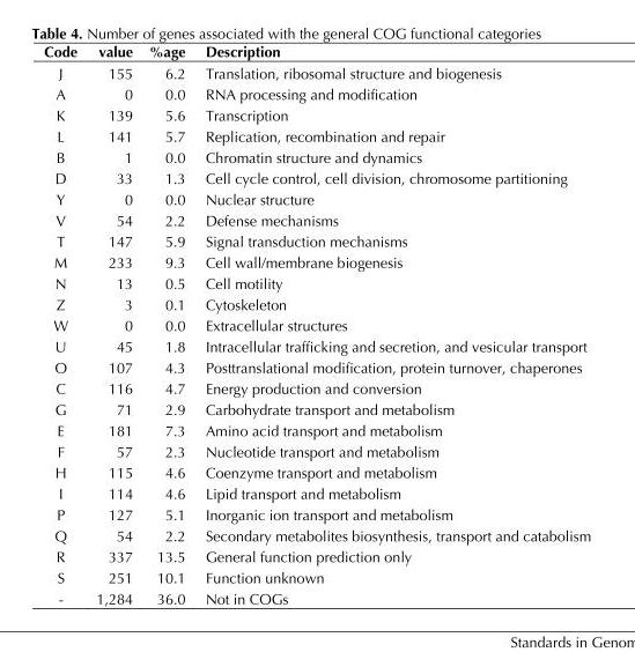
<table><thead><tr><td>Code</td><td>value</td><td>%age</td><td>Description</td></tr></thead><tbody><tr><td>J</td><td>155</td><td>6.2</td><td>Translation, ribosomal structure and biogenesis</td></tr><tr><td>A</td><td>0</td><td>0.0</td><td>RNA processing and modification</td></tr><tr><td>K</td><td>139</td><td>5.6</td><td>Transcription</td></tr><tr><td>L</td><td>141</td><td>5.7</td><td>Replication, recombination and repair</td></tr><tr><td>B</td><td>1</td><td>0.0</td><td>Chromatin structure and dynamics</td></tr><tr><td>D</td><td>33</td><td>1.3</td><td>Cell cycle control, cell division, chromosome partitioning</td></tr><tr><td>Y</td><td>0</td><td>0.0</td><td>Nuclear structure</td></tr><tr><td>V</td><td>54</td><td>2.2</td><td>Defense mechanisms</td></tr><tr><td>T</td><td>147</td><td>5.9</td><td>Signal transduction mechanisms</td></tr><tr><td>M</td><td>233</td><td>9.3</td><td>Cell wall/membrane biogenesis</td></tr><tr><td>N</td><td>13</td><td>0.5</td><td>Cell motility</td></tr><tr><td>Z</td><td>3</td><td>0.1</td><td>Cytoskeleton</td></tr><tr><td>W</td><td>0</td><td>0.0</td><td>Extracellular structures</td></tr><tr><td>U</td><td>45</td><td>1.8</td><td>Intracellular trafficking and secretion, and vesicular transport</td></tr><tr><td>O</td><td>107</td><td>4.3</td><td>Posttranslational modification, protein turnover, chaperones</td></tr><tr><td>C</td><td>116</td><td>4.7</td><td>Energy production and conversion</td></tr><tr><td>G</td><td>71</td><td>2.9</td><td>Carbohydrate transport and metabolism</td></tr><tr><td>E</td><td>181</td><td>7.3</td><td>Amino acid transport and metabolism</td></tr><tr><td>F</td><td>57</td><td>2.3</td><td>Nucleotide transport and metabolism</td></tr><tr><td>H</td><td>115</td><td>4.6</td><td>Coenzyme transport and metabolism</td></tr><tr><td>I</td><td>114</td><td>4.6</td><td>Lipid transport and metabolism</td></tr><tr><td>P</td><td>127</td><td>5.1</td><td>Inorganic ion transport and metabolism</td></tr><tr><td>Q</td><td>54</td><td>2.2</td><td>Secondary metabolites biosynthesis, transport and catabolism</td></tr><tr><td>R</td><td>337</td><td>13.5</td><td>General function prediction only</td></tr><tr><td>S</td><td>251</td><td>10.1</td><td>Function unknown</td></tr><tr><td>-</td><td>1,284</td><td>36.0</td><td>Not in COGs</td></tr></tbody></table>